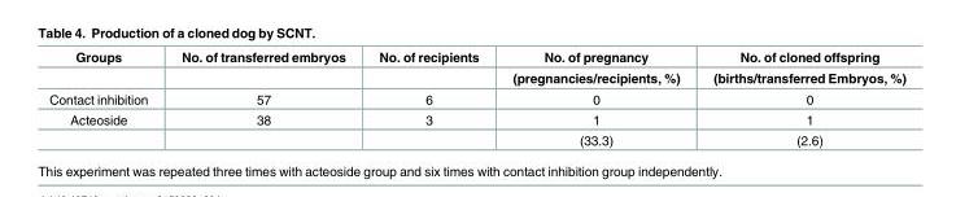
<table><thead><tr><td rowspan="2">Groups</td><td rowspan="2">No. of transferred embryos</td><td rowspan="2">No. of recipients</td><td rowspan="2">No. of pregnancy (pregnancies/recipients, %)</td><td rowspan="2">No. of cloned offspring (births/transferred Embryos, %)</td></tr><tr></tr></thead><tbody><tr><td>Contact inhibition</td><td>57</td><td>6</td><td>0</td><td>0</td></tr><tr><td rowspan="2">Acteoside</td><td>38</td><td>3</td><td>1</td><td>1</td></tr><tr><td></td><td></td><td>(33.3)</td><td>(2.6)</td></tr></tbody></table>